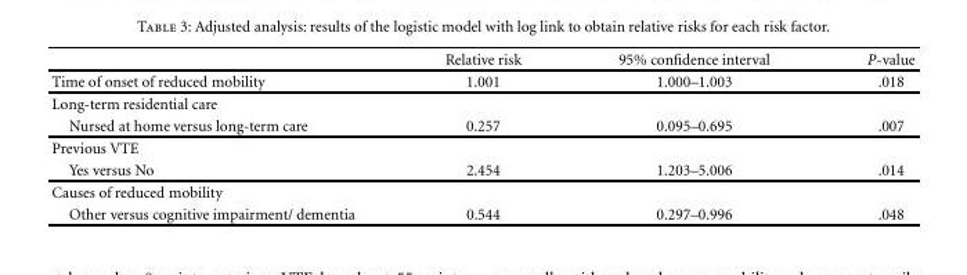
<table><thead><tr><td></td><td>Relative risk</td><td>95% confidence interval</td><td>P-value</td></tr></thead><tbody><tr><td>Time of onset of reduced mobility</td><td>1.001</td><td>1.000–1.003</td><td>.018</td></tr><tr><td colspan="4">Long-term residential care</td></tr><tr><td>Nursed at home versus long-term care</td><td>0.257</td><td>0.095–0.695</td><td>.007</td></tr><tr><td colspan="4">Previous VTE</td></tr><tr><td>Yes versus No</td><td>2.454</td><td>1.203–5.006</td><td>.014</td></tr><tr><td colspan="4">Causes of reduced mobility</td></tr><tr><td>Other versus cognitive impairment/ dementia</td><td>0.544</td><td>0.297–0.996</td><td>.048</td></tr></tbody></table>